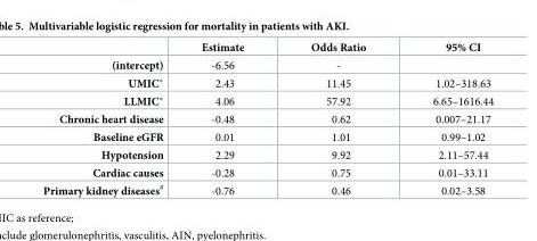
<table><thead><tr><td></td><td>Estimate</td><td>Odds Ratio</td><td>95% CI</td></tr></thead><tbody><tr><td>(intercept)</td><td>-6.56</td><td>-</td><td></td></tr><tr><td>UMIC*</td><td>2.43</td><td>11.45</td><td>1.02–318.63</td></tr><tr><td>LLMIC*</td><td>4.06</td><td>57.92</td><td>6.65–1616.44</td></tr><tr><td>Chronic heart disease</td><td>-0.48</td><td>0.62</td><td>0.007–21.17</td></tr><tr><td>Baseline eGFR</td><td>0.01</td><td>1.01</td><td>0.99–1.02</td></tr><tr><td>Hypotension</td><td>2.29</td><td>9.92</td><td>2.11–57.44</td></tr><tr><td>Cardiac causes</td><td>-0.28</td><td>0.75</td><td>0.01–33.11</td></tr><tr><td>Primary kidney diseases<sup>#</sup></td><td>-0.76</td><td>0.46</td><td>0.02–3.58</td></tr></tbody></table>